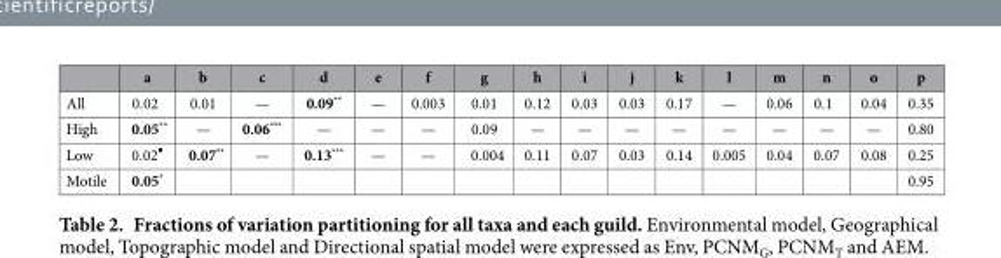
<table><thead><tr><td></td><td>a</td><td>b</td><td>c</td><td>d</td><td>e</td><td>f</td><td>g</td><td>h</td><td>i</td><td>j</td><td>k</td><td>l</td><td>m</td><td>n</td><td>o</td><td>p</td></tr></thead><tbody><tr><td>All</td><td>0.02</td><td>0.01</td><td>—</td><td>0.09**</td><td>—</td><td>0.003</td><td>0.01</td><td>0.12</td><td>0.03</td><td>0.03</td><td>0.17</td><td>—</td><td>0.06</td><td>0.1</td><td>0.04</td><td>0.35</td></tr><tr><td>High</td><td>0.05**</td><td>—</td><td>0.06***</td><td>—</td><td>—</td><td>—</td><td>0.09</td><td>—</td><td>—</td><td>—</td><td>—</td><td>—</td><td>—</td><td>—</td><td>—</td><td>0.80</td></tr><tr><td>Low</td><td>0.02<sup>■</sup></td><td>0.07**</td><td>—</td><td>0.13***</td><td>—</td><td>—</td><td>0.004</td><td>0.11</td><td>0.07</td><td>0.03</td><td>0.14</td><td>0.005</td><td>0.04</td><td>0.07</td><td>0.08</td><td>0.25</td></tr><tr><td>Motile</td><td>0.05*</td><td></td><td></td><td></td><td></td><td></td><td></td><td></td><td></td><td></td><td></td><td></td><td></td><td></td><td></td><td>0.95</td></tr></tbody></table>